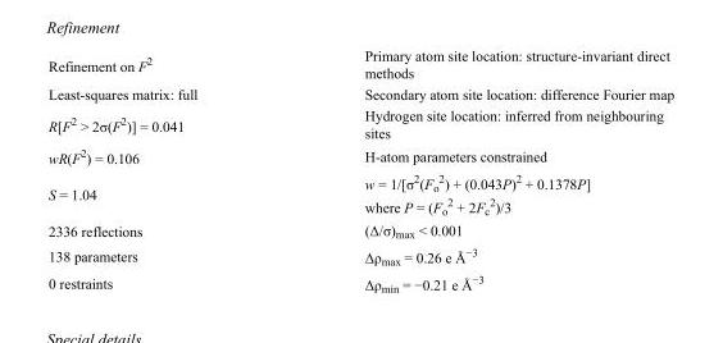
<table><tbody><tr><td>Refinement on F<sup>2</sup></td><td>Primary atom site location: structure-invariant direct methods</td></tr><tr><td>Least-squares matrix: full</td><td>Secondary atom site location: difference Fourier map</td></tr><tr><td>R[F<sup>2</sup> &gt; 2σ(F<sup>2</sup>)] = 0.041</td><td>Hydrogen site location: inferred from neighbouring sites</td></tr><tr><td>wR(F<sup>2</sup>) = 0.106</td><td>H-atom parameters constrained</td></tr><tr><td>S = 1.04</td><td>w = 1/[σ<sup>2</sup>(F<sub>o</sub> <sup>2</sup>) + (0.043P)<sup>2</sup> + 0.1378P] where P = (F<sub>o</sub> <sup>2</sup> + 2F<sub>c</sub> <sup>2</sup>)/3</td></tr><tr><td>2336 reflections</td><td>(Δ/σ)<sub>max</sub> &lt; 0.001</td></tr><tr><td>138 parameters</td><td>Δρ<sub>max</sub> = 0.26 e Å<sup>−3</sup></td></tr><tr><td>0 restraints</td><td>Δρ<sub>min</sub> = −0.21 e Å<sup>−3</sup></td></tr></tbody></table>